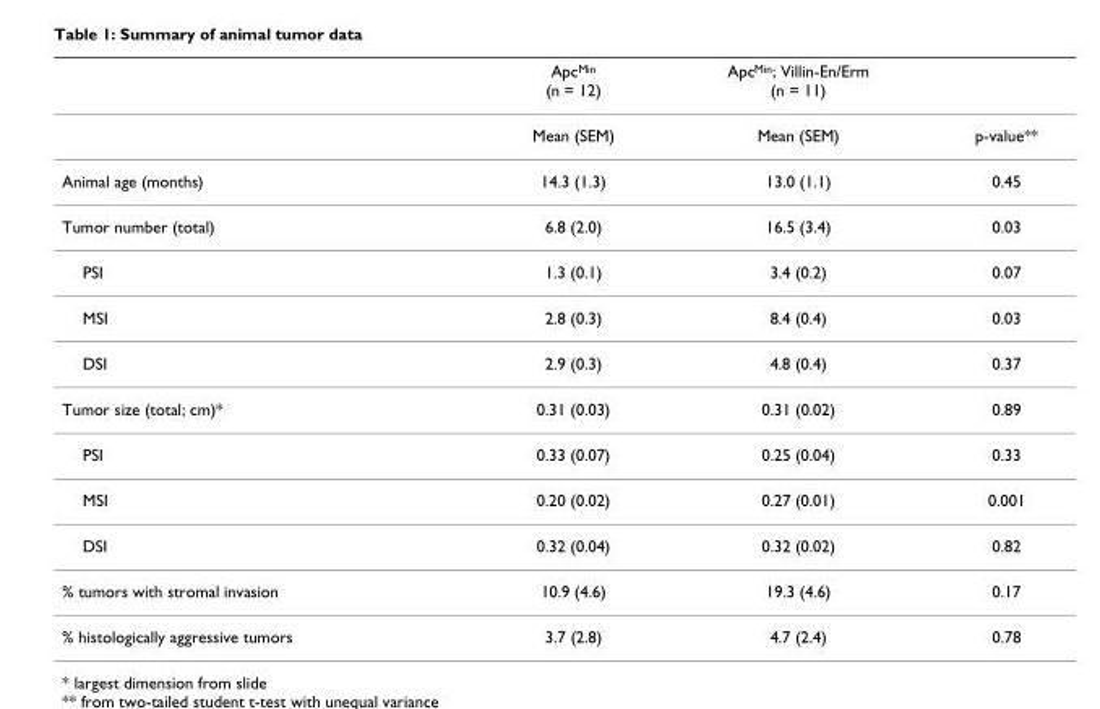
<table><thead><tr><td></td><td>Apc<sup>Min</sup> (n = 12)</td><td>Apc<sup>Min</sup>; Villin-En/Erm (n = 11)</td><td></td></tr></thead><tbody><tr><td></td><td>Mean (SEM)</td><td>Mean (SEM)</td><td>p-value**</td></tr><tr><td>Animal age (months)</td><td>14.3 (1.3)</td><td>13.0 (1.1)</td><td>0.45</td></tr><tr><td>Tumor number (total)</td><td>6.8 (2.0)</td><td>16.5 (3.4)</td><td>0.03</td></tr><tr><td>PSI</td><td>1.3 (0.1)</td><td>3.4 (0.2)</td><td>0.07</td></tr><tr><td>MSI</td><td>2.8 (0.3)</td><td>8.4 (0.4)</td><td>0.03</td></tr><tr><td>DSI</td><td>2.9 (0.3)</td><td>4.8 (0.4)</td><td>0.37</td></tr><tr><td>Tumor size (total; cm)*</td><td>0.31 (0.03)</td><td>0.31 (0.02)</td><td>0.89</td></tr><tr><td>PSI</td><td>0.33 (0.07)</td><td>0.25 (0.04)</td><td>0.33</td></tr><tr><td>MSI</td><td>0.20 (0.02)</td><td>0.27 (0.01)</td><td>0.001</td></tr><tr><td>DSI</td><td>0.32 (0.04)</td><td>0.32 (0.02)</td><td>0.82</td></tr><tr><td>% tumors with stromal invasion</td><td>10.9 (4.6)</td><td>19.3 (4.6)</td><td>0.17</td></tr><tr><td>% histologically aggressive tumors</td><td>3.7 (2.8)</td><td>4.7 (2.4)</td><td>0.78</td></tr></tbody></table>